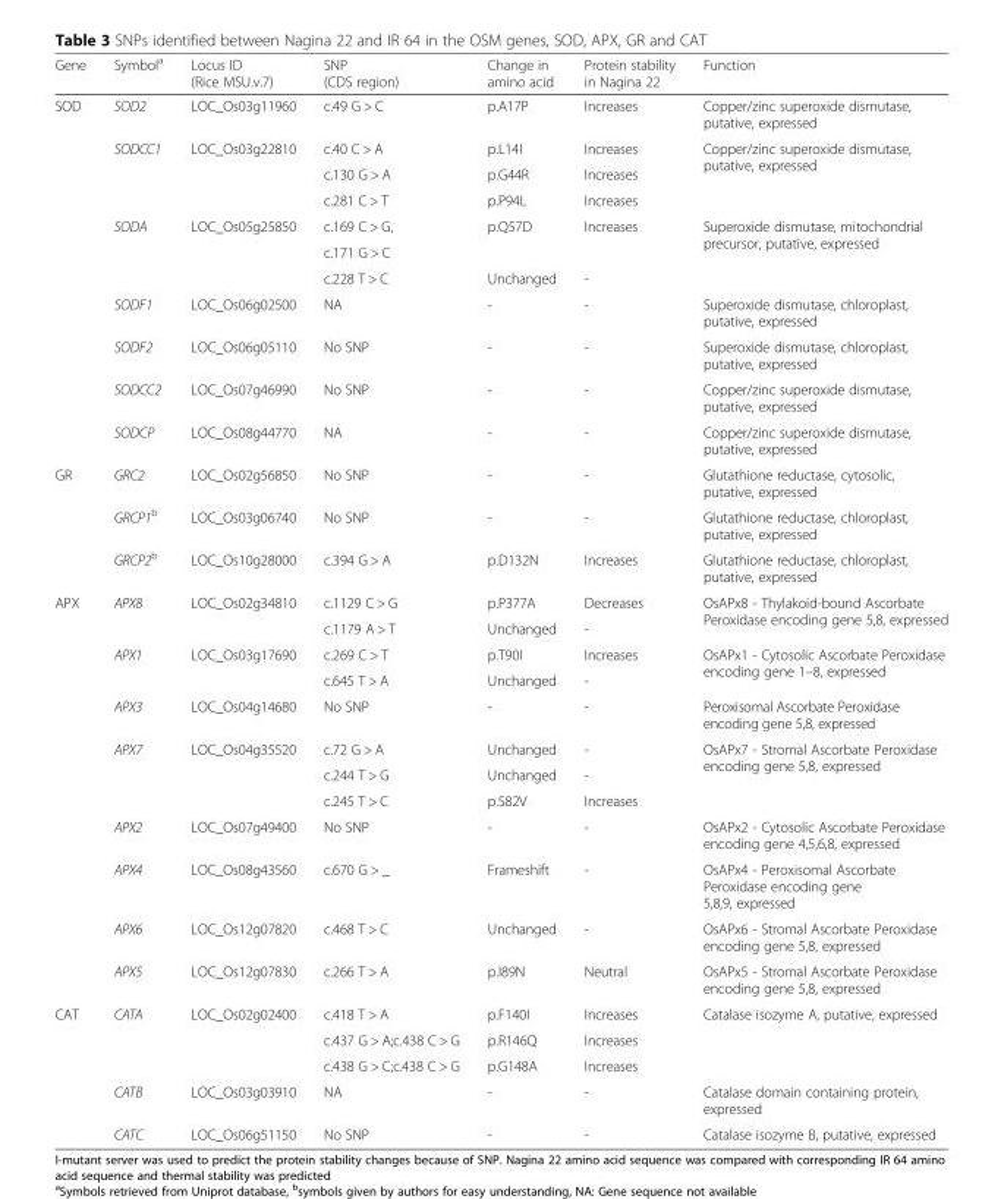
<table><thead><tr><td>Gene</td><td>Symbol<sup>a</sup></td><td>Locus ID (Rice MSU.v.7)</td><td>SNP (CDS region)</td><td>Change in amino acid</td><td>Protein stability in Nagina 22</td><td>Function</td></tr></thead><tbody><tr><td rowspan="11">SOD</td><td>SOD2</td><td>LOC_Os03g11960</td><td>c.49 G &gt; C</td><td>p.A17P</td><td>Increases</td><td>Copper/zinc superoxide dismutase, putative, expressed</td></tr><tr><td rowspan="3">SODCC1</td><td rowspan="3">LOC_Os03g22810</td><td>c.40 C &gt; A</td><td>p.L14I</td><td>Increases</td><td rowspan="3">Copper/zinc superoxide dismutase, putative, expressed</td></tr><tr><td>c.130 G &gt; A</td><td>p.G44R</td><td>Increases</td></tr><tr><td>c.281 C &gt; T</td><td>p.P94L</td><td>Increases</td></tr><tr><td rowspan="3">SODA</td><td rowspan="3">LOC_Os05g25850</td><td>c.169 C &gt; G,</td><td rowspan="2">p.Q57D</td><td rowspan="2">Increases</td><td rowspan="3">Superoxide dismutase, mitochondrial precursor, putative, expressed</td></tr><tr><td>c.171 G &gt; C</td></tr><tr><td>c.228 T &gt; C</td><td>Unchanged</td><td>-</td></tr><tr><td>SODF1</td><td>LOC_Os06g02500</td><td>NA</td><td>-</td><td>-</td><td>Superoxide dismutase, chloroplast, putative, expressed</td></tr><tr><td>SODF2</td><td>LOC_Os06g05110</td><td>No SNP</td><td>-</td><td>-</td><td>Superoxide dismutase, chloroplast, putative, expressed</td></tr><tr><td>SODCC2</td><td>LOC_Os07g46990</td><td>No SNP</td><td>-</td><td>-</td><td>Copper/zinc superoxide dismutase, putative, expressed</td></tr><tr><td>SODCP</td><td>LOC_Os08g44770</td><td>NA</td><td>-</td><td>-</td><td>Copper/zinc superoxide dismutase, putative, expressed</td></tr><tr><td rowspan="3">GR</td><td>GRC2</td><td>LOC_Os02g56850</td><td>No SNP</td><td>-</td><td>-</td><td>Glutathione reductase, cytosolic, putative, expressed</td></tr><tr><td>GRCP1<sup>b</sup></td><td>LOC_Os03g06740</td><td>No SNP</td><td>-</td><td>-</td><td>Glutathione reductase, chloroplast, putative, expressed</td></tr><tr><td>GRCP2<sup>b</sup></td><td>LOC_Os10g28000</td><td>c.394 G &gt; A</td><td>p.D132N</td><td>Increases</td><td>Glutathione reductase, chloroplast, putative, expressed</td></tr><tr><td rowspan="12">APX</td><td rowspan="2">APX8</td><td rowspan="2">LOC_Os02g34810</td><td>c.1129 C &gt; G</td><td>p.P377A</td><td>Decreases</td><td rowspan="2">OsAPx8 - Thylakoid-bound Ascorbate Peroxidase encoding gene 5,8, expressed</td></tr><tr><td>c.1179 A &gt; T</td><td>Unchanged</td><td>-</td></tr><tr><td>APX1</td><td>LOC_Os03g17690</td><td>c.269 C &gt; T</td><td>p.T90I</td><td>Increases</td><td rowspan="2">OsAPx1 - Cytosolic Ascorbate Peroxidase encoding gene 1–8, expressed</td></tr><tr><td></td><td></td><td>c.645 T &gt; A</td><td>Unchanged</td><td>-</td></tr><tr><td>APX3</td><td>LOC_Os04g14680</td><td>No SNP</td><td>-</td><td>-</td><td>Peroxisomal Ascorbate Peroxidase encoding gene 5,8, expressed</td></tr><tr><td rowspan="3">APX7</td><td rowspan="3">LOC_Os04g35520</td><td>c.72 G &gt; A</td><td>Unchanged</td><td>-</td><td rowspan="3">OsAPx7 - Stromal Ascorbate Peroxidase encoding gene 5,8, expressed</td></tr><tr><td>c.244 T &gt; G</td><td>Unchanged</td><td>-</td></tr><tr><td>c.245 T &gt; C</td><td>p.S82V</td><td>Increases</td></tr><tr><td>APX2</td><td>LOC_Os07g49400</td><td>No SNP</td><td>-</td><td>-</td><td>OsAPx2 - Cytosolic Ascorbate Peroxidase encoding gene 4,5,6,8, expressed</td></tr><tr><td>APX4</td><td>LOC_Os08g43560</td><td>c.670 G &gt; _</td><td>Frameshift</td><td>-</td><td>OsAPx4 - Peroxisomal Ascorbate Peroxidase encoding gene 5,8,9, expressed</td></tr><tr><td>APX6</td><td>LOC_Os12g07820</td><td>c.468 T &gt; C</td><td>Unchanged</td><td>-</td><td>OsAPx6 - Stromal Ascorbate Peroxidase encoding gene 5,8, expressed</td></tr><tr><td>APX5</td><td>LOC_Os12g07830</td><td>c.266 T &gt; A</td><td>p.I89N</td><td>Neutral</td><td>OsAPx5 - Stromal Ascorbate Peroxidase encoding gene 5,8, expressed</td></tr><tr><td rowspan="5">CAT</td><td rowspan="3">CATA</td><td rowspan="3">LOC_Os02g02400</td><td>c.418 T &gt; A</td><td>p.F140I</td><td>Increases</td><td rowspan="3">Catalase isozyme A, putative, expressed</td></tr><tr><td>c.437 G &gt; A;c.438 C &gt; G</td><td>p.R146Q</td><td>Increases</td></tr><tr><td>c.438 G &gt; C;c.438 C &gt; G</td><td>p.G148A</td><td>Increases</td></tr><tr><td>CATB</td><td>LOC_Os03g03910</td><td>NA</td><td>-</td><td>-</td><td>Catalase domain containing protein, expressed</td></tr><tr><td>CATC</td><td>LOC_Os06g51150</td><td>No SNP</td><td>-</td><td>-</td><td>Catalase isozyme B, putative, expressed</td></tr></tbody></table>